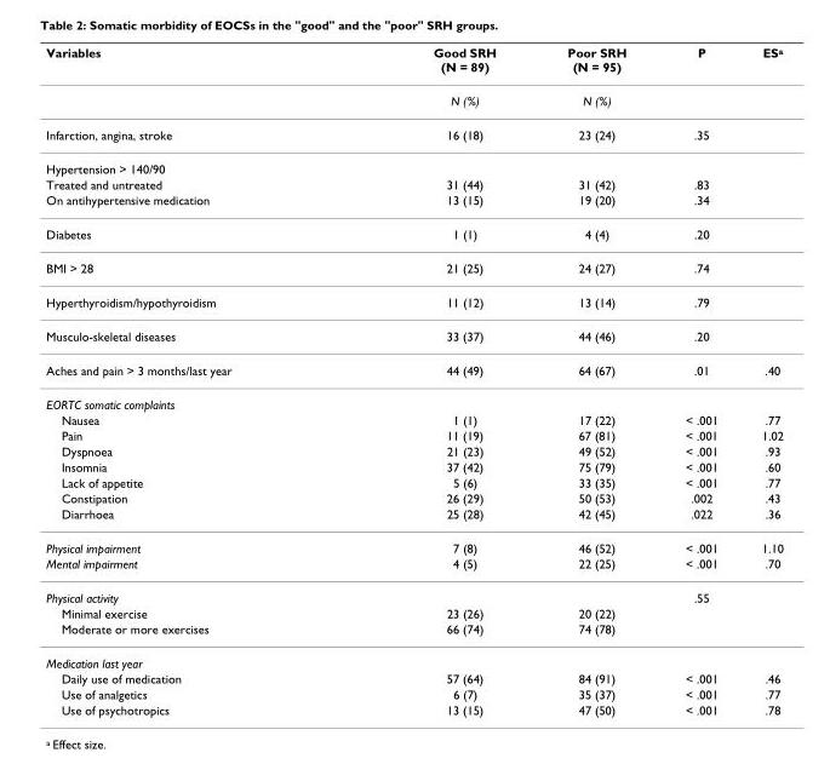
<table><thead><tr><td>Variables</td><td>Good SRH (N = 89)</td><td>Poor SRH (N = 95)</td><td>P</td><td>ES<sup>a</sup></td></tr></thead><tbody><tr><td></td><td>N (%)</td><td>N (%)</td><td></td><td></td></tr><tr><td>Infarction, angina, stroke</td><td>16 (18)</td><td>23 (24)</td><td>.35</td><td></td></tr><tr><td colspan="5">Hypertension &gt; 140/90</td></tr><tr><td>Treated and untreated</td><td>31 (44)</td><td>31 (42)</td><td>.83</td><td></td></tr><tr><td>On antihypertensive medication</td><td>13 (15)</td><td>19 (20)</td><td>.34</td><td></td></tr><tr><td>Diabetes</td><td>1 (1)</td><td>4 (4)</td><td>.20</td><td></td></tr><tr><td>BMI &gt; 28</td><td>21 (25)</td><td>24 (27)</td><td>.74</td><td></td></tr><tr><td>Hyperthyroidism/hypothyroidism</td><td>11 (12)</td><td>13 (14)</td><td>.79</td><td></td></tr><tr><td>Musculo-skeletal diseases</td><td>33 (37)</td><td>44 (46)</td><td>.20</td><td></td></tr><tr><td>Aches and pain &gt; 3 months/last year</td><td>44 (49)</td><td>64 (67)</td><td>.01</td><td>.40</td></tr><tr><td colspan="5">EORTC somatic complaints</td></tr><tr><td>Nausea</td><td>1 (1)</td><td>17 (22)</td><td>&lt; .001</td><td>.77</td></tr><tr><td>Pain</td><td>11 (19)</td><td>67 (81)</td><td>&lt; .001</td><td>1.02</td></tr><tr><td>Dyspnoea</td><td>21 (23)</td><td>49 (52)</td><td>&lt; .001</td><td>.93</td></tr><tr><td>Insomnia</td><td>37 (42)</td><td>75 (79)</td><td>&lt; .001</td><td>.60</td></tr><tr><td>Lack of appetite</td><td>5 (6)</td><td>33 (35)</td><td>&lt; .001</td><td>.77</td></tr><tr><td>Constipation</td><td>26 (29)</td><td>50 (53)</td><td>.002</td><td>.43</td></tr><tr><td>Diarrhoea</td><td>25 (28)</td><td>42 (45)</td><td>.022</td><td>.36</td></tr><tr><td>Physical impairment</td><td>7 (8)</td><td>46 (52)</td><td>&lt; .001</td><td>1.10</td></tr><tr><td>Mental impairment</td><td>4 (5)</td><td>22 (25)</td><td>&lt; .001</td><td>.70</td></tr><tr><td>Physical activity</td><td></td><td></td><td>.55</td><td></td></tr><tr><td>Minimal exercise</td><td>23 (26)</td><td>20 (22)</td><td></td><td></td></tr><tr><td>Moderate or more exercises</td><td>66 (74)</td><td>74 (78)</td><td></td><td></td></tr><tr><td colspan="5">Medication last year</td></tr><tr><td>Daily use of medication</td><td>57 (64)</td><td>84 (91)</td><td>&lt; .001</td><td>.46</td></tr><tr><td>Use of analgetics</td><td>6 (7)</td><td>35 (37)</td><td>&lt; .001</td><td>.77</td></tr><tr><td>Use of psychotropics</td><td>13 (15)</td><td>47 (50)</td><td>&lt; .001</td><td>.78</td></tr></tbody></table>